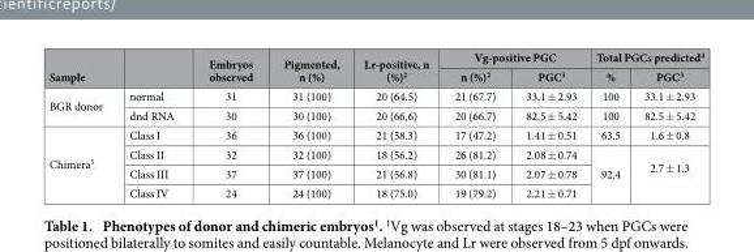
<table><thead><tr><td rowspan="2">Sample</td><td rowspan="2"></td><td rowspan="2">Embryos observed</td><td rowspan="2">Pigmented, n (%)</td><td rowspan="2">Lr-positive, n (%)<sup>2</sup></td><td colspan="2">Vg-positive PGC</td><td colspan="2">Total PGCs predicted<sup>4</sup></td></tr><tr><td>n (%)<sup>2</sup></td><td>PGC<sup>3</sup></td><td>%</td><td>PGC<sup>3</sup></td></tr></thead><tbody><tr><td rowspan="2">BGR donor</td><td>normal</td><td>31</td><td>31 (100)</td><td>20 (64.5)</td><td>21 (67.7)</td><td>33.1 ± 2.93</td><td>100</td><td>33.1 ± 2.93</td></tr><tr><td>dnd RNA</td><td>30</td><td>30 (100)</td><td>20 (66,6)</td><td>20 (66.7)</td><td>82.5 ± 5.42</td><td>100</td><td>82.5 ± 5.42</td></tr><tr><td rowspan="4">Chimera<sup>5</sup></td><td>Class I</td><td>36</td><td>36 (100)</td><td>21 (58.3)</td><td>17 (47.2)</td><td>1.41 ± 0.51</td><td>63.5</td><td>1.6 ± 0.8</td></tr><tr><td>Class II</td><td>32</td><td>32 (100)</td><td>18 (56.2)</td><td>26 (81.2)</td><td>2.08 ± 0.74</td><td rowspan="3">92.4</td><td rowspan="3">2.7 ± 1.3</td></tr><tr><td>Class III</td><td>37</td><td>37 (100)</td><td>21 (56.8)</td><td>30 (81.1)</td><td>2.07 ± 0.78</td></tr><tr><td>Class IV</td><td>24</td><td>24 (100)</td><td>18 (75.0)</td><td>19 (79.2)</td><td>2.21 ± 0.71</td></tr></tbody></table>